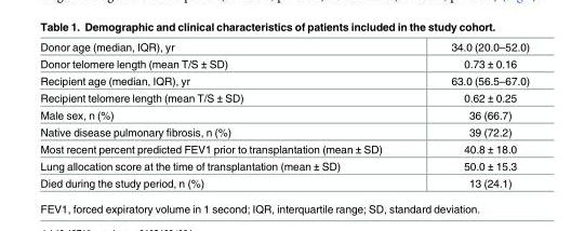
<table><tbody><tr><td>Donor age (median, IQR), yr</td><td>34.0 (20.0–52.0)</td></tr><tr><td>Donor telomere length (mean T/S ± SD)</td><td>0.73 ± 0.16</td></tr><tr><td>Recipient age (median, IQR), yr</td><td>63.0 (56.5–67.0)</td></tr><tr><td>Recipient telomere length (mean T/S ± SD)</td><td>0.62 ± 0.25</td></tr><tr><td>Male sex, n (%)</td><td>36 (66.7)</td></tr><tr><td>Native disease pulmonary fibrosis, n (%)</td><td>39 (72.2)</td></tr><tr><td>Most recent percent predicted FEV1 prior to transplantation (mean ± SD)</td><td>40.8 ± 18.0</td></tr><tr><td>Lung allocation score at the time of transplantation (mean ± SD)</td><td>50.0 ± 15.3</td></tr><tr><td>Died during the study period, n (%)</td><td>13 (24.1)</td></tr></tbody></table>